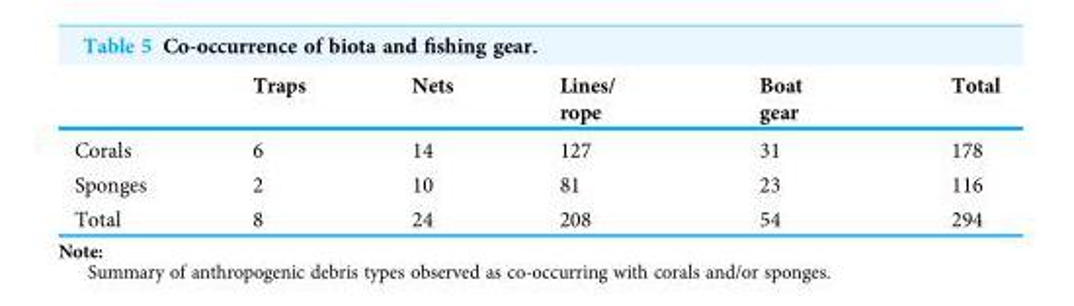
<table><thead><tr><td></td><td>Traps</td><td>Nets</td><td>Lines/ rope</td><td>Boat gear</td><td>Total</td></tr></thead><tbody><tr><td>Corals</td><td>6</td><td>14</td><td>127</td><td>31</td><td>178</td></tr><tr><td>Sponges</td><td>2</td><td>10</td><td>81</td><td>23</td><td>116</td></tr><tr><td>Total</td><td>8</td><td>24</td><td>208</td><td>54</td><td>294</td></tr></tbody></table>